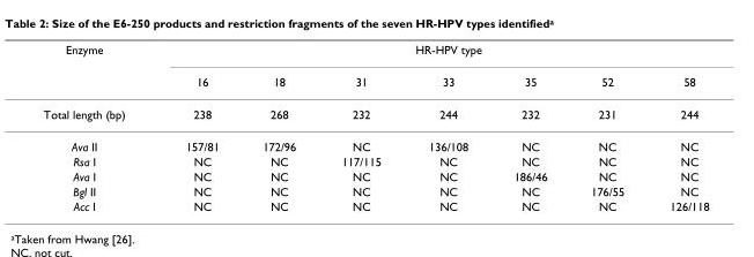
<table><thead><tr><td rowspan="2">Enzyme</td><td colspan="7">HR-HPV type</td></tr><tr><td>16</td><td>18</td><td>31</td><td>33</td><td>35</td><td>52</td><td>58</td></tr></thead><tbody><tr><td>Total length (bp)</td><td>238</td><td>268</td><td>232</td><td>244</td><td>232</td><td>231</td><td>244</td></tr><tr><td>Ava II</td><td>157/81</td><td>172/96</td><td>NC</td><td>136/108</td><td>NC</td><td>NC</td><td>NC</td></tr><tr><td>Rsa I</td><td>NC</td><td>NC</td><td>117/115</td><td>NC</td><td>NC</td><td>NC</td><td>NC</td></tr><tr><td>Ava I</td><td>NC</td><td>NC</td><td>NC</td><td>NC</td><td>186/46</td><td>NC</td><td>NC</td></tr><tr><td>Bgl II</td><td>NC</td><td>NC</td><td>NC</td><td>NC</td><td>NC</td><td>176/55</td><td>NC</td></tr><tr><td>Acc I</td><td>NC</td><td>NC</td><td>NC</td><td>NC</td><td>NC</td><td>NC</td><td>126/118</td></tr></tbody></table>